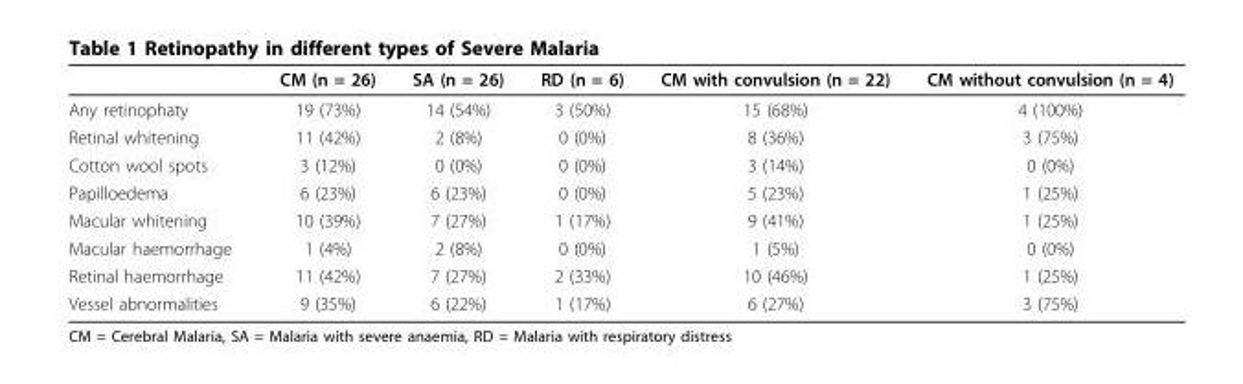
<table><thead><tr><td></td><td>CM (n = 26)</td><td>SA (n = 26)</td><td>RD (n = 6)</td><td>CM with convulsion (n = 22)</td><td>CM without convulsion (n = 4)</td></tr></thead><tbody><tr><td>Any retinophaty</td><td>19 (73%)</td><td>14 (54%)</td><td>3 (50%)</td><td>15 (68%)</td><td>4 (100%)</td></tr><tr><td>Retinal whitening</td><td>11 (42%)</td><td>2 (8%)</td><td>0 (0%)</td><td>8 (36%)</td><td>3 (75%)</td></tr><tr><td>Cotton wool spots</td><td>3 (12%)</td><td>0 (0%)</td><td>0 (0%)</td><td>3 (14%)</td><td>0 (0%)</td></tr><tr><td>Papilloedema</td><td>6 (23%)</td><td>6 (23%)</td><td>0 (0%)</td><td>5 (23%)</td><td>1 (25%)</td></tr><tr><td>Macular whitening</td><td>10 (39%)</td><td>7 (27%)</td><td>1 (17%)</td><td>9 (41%)</td><td>1 (25%)</td></tr><tr><td>Macular haemorrhage</td><td>1 (4%)</td><td>2 (8%)</td><td>0 (0%)</td><td>1 (5%)</td><td>0 (0%)</td></tr><tr><td>Retinal haemorrhage</td><td>11 (42%)</td><td>7 (27%)</td><td>2 (33%)</td><td>10 (46%)</td><td>1 (25%)</td></tr><tr><td>Vessel abnormalities</td><td>9 (35%)</td><td>6 (22%)</td><td>1 (17%)</td><td>6 (27%)</td><td>3 (75%)</td></tr></tbody></table>